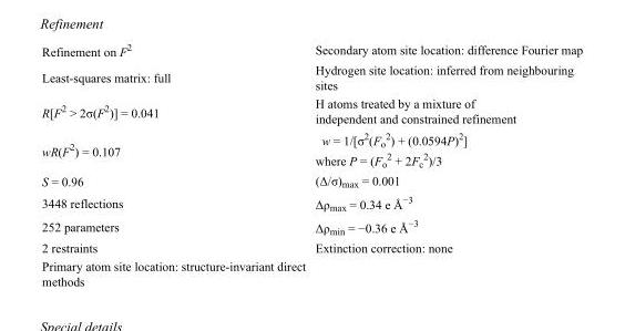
<table><tbody><tr><td>Refinement on F<sup>2</sup></td><td>Secondary atom site location: difference Fourier map</td></tr><tr><td>Least-squares matrix: full</td><td>Hydrogen site location: inferred from neighbouring sites</td></tr><tr><td>R[F<sup>2</sup> &gt; 2σ(F<sup>2</sup>)] = 0.041</td><td>H atoms treated by a mixture of independent and constrained refinement</td></tr><tr><td>wR(F<sup>2</sup>) = 0.107</td><td>w = 1/[σ<sup>2</sup>(F<sub>o</sub> <sup>2</sup>) + (0.0594P)<sup>2</sup>] where P = (F<sub>o</sub> <sup>2</sup> + 2F<sub>c</sub> <sup>2</sup>)/3</td></tr><tr><td>S = 0.96</td><td>(Δ/σ)<sub>max</sub> = 0.001</td></tr><tr><td>3448 reflections</td><td>Δρ<sub>max</sub> = 0.34 e Å<sup>−3</sup></td></tr><tr><td>252 parameters</td><td>Δρ<sub>min</sub> = −0.36 e Å<sup>−3</sup></td></tr><tr><td>2 restraints</td><td>Extinction correction: none</td></tr><tr><td>Primary atom site location: structure-invariant direct methods</td><td></td></tr></tbody></table>